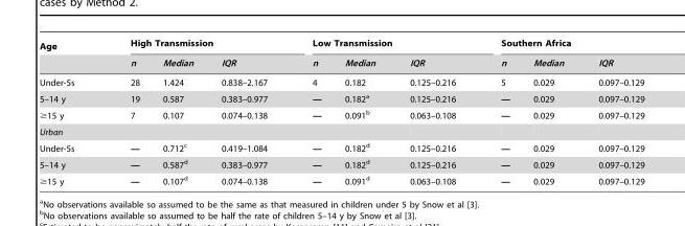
<table><thead><tr><td rowspan="2">Age</td><td colspan="3">High Transmission</td><td colspan="3">Low Transmission</td><td colspan="3">Southern Africa</td></tr><tr><td>n</td><td>Median</td><td>IQR</td><td>n</td><td>Median</td><td>IQR</td><td>n</td><td>Median</td><td>IQR</td></tr></thead><tbody><tr><td>Under-5s</td><td>28</td><td>1.424</td><td>0.838–2.167</td><td>4</td><td>0.182</td><td>0.125–0.216</td><td>5</td><td>0.029</td><td>0.097–0.129</td></tr><tr><td>5–14 y</td><td>19</td><td>0.587</td><td>0.383–0.977</td><td>—</td><td>0.182<sup>a</sup></td><td>0.125–0.216</td><td>—</td><td>0.029</td><td>0.097–0.129</td></tr><tr><td>≥15 y</td><td>7</td><td>0.107</td><td>0.074–0.138</td><td>—</td><td>0.091<sup>b</sup></td><td>0.063–0.108</td><td>—</td><td>0.029</td><td>0.097–0.129</td></tr><tr><td colspan="10">Urban</td></tr><tr><td>Under-5s</td><td>—</td><td>0.712<sup>c</sup></td><td>0.419–1.084</td><td>—</td><td>0.182<sup>d</sup></td><td>0.125–0.216</td><td>—</td><td>0.029</td><td>0.097–0.129</td></tr><tr><td>5–14 y</td><td>—</td><td>0.587<sup>d</sup></td><td>0.383–0.977</td><td>—</td><td>0.182<sup>d</sup></td><td>0.125–0.216</td><td>—</td><td>0.029</td><td>0.097–0.129</td></tr><tr><td>≥15 y</td><td>—</td><td>0.107<sup>d</sup></td><td>0.074–0.138</td><td>—</td><td>0.091<sup>d</sup></td><td>0.063–0.108</td><td>—</td><td>0.029</td><td>0.097–0.129</td></tr></tbody></table>